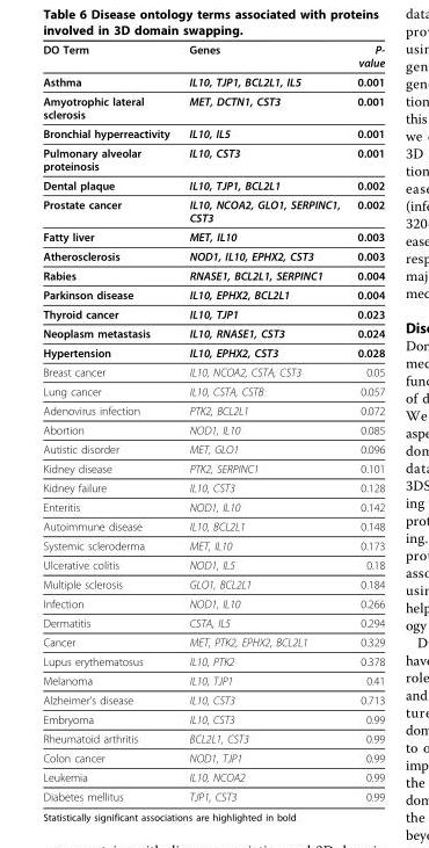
<table><thead><tr><td>DO Term</td><td>Genes</td><td>P- value</td></tr></thead><tbody><tr><td>Asthma</td><td>IL10, TJP1, BCL2L1, IL5</td><td>0.001</td></tr><tr><td>Amyotrophic lateral sclerosis</td><td>MET, DCTN1, CST3</td><td>0.001</td></tr><tr><td>Bronchial hyperreactivity</td><td>IL10, IL5</td><td>0.001</td></tr><tr><td>Pulmonary alveolar proteinosis</td><td>IL10, CST3</td><td>0.001</td></tr><tr><td>Dental plaque</td><td>IL10, TJP1, BCL2L1</td><td>0.002</td></tr><tr><td>Prostate cancer</td><td>IL10, NCOA2, GLO1, SERPINC1, CST3</td><td>0.002</td></tr><tr><td>Fatty liver</td><td>MET, IL10</td><td>0.003</td></tr><tr><td>Atherosclerosis</td><td>NOD1, IL10, EPHX2, CST3</td><td>0.003</td></tr><tr><td>Rabies</td><td>RNASE1, BCL2L1, SERPINC1</td><td>0.004</td></tr><tr><td>Parkinson disease</td><td>IL10, EPHX2, BCL2L1</td><td>0.004</td></tr><tr><td>Thyroid cancer</td><td>IL10, TJP1</td><td>0.023</td></tr><tr><td>Neoplasm metastasis</td><td>IL10, RNASE1, CST3</td><td>0.024</td></tr><tr><td>Hypertension</td><td>IL10, EPHX2, CST3</td><td>0.028</td></tr><tr><td>Breast cancer</td><td>IL10, NCOA2, CSTA, CST3</td><td>0.05</td></tr><tr><td>Lung cancer</td><td>IL10, CSTA, CSTB</td><td>0.057</td></tr><tr><td>Adenovirus infection</td><td>PTK2, BCL2L1</td><td>0.072</td></tr><tr><td>Abortion</td><td>NOD1, IL10</td><td>0.085</td></tr><tr><td>Autistic disorder</td><td>MET, GLO1</td><td>0.096</td></tr><tr><td>Kidney disease</td><td>PTK2, SERPINC1</td><td>0.101</td></tr><tr><td>Kidney failure</td><td>IL10, CST3</td><td>0.128</td></tr><tr><td>Enteritis</td><td>NOD1, IL10</td><td>0.142</td></tr><tr><td>Autoimmune disease</td><td>IL10, BCL2L1</td><td>0.148</td></tr><tr><td>Systemic scleroderma</td><td>MET, IL10</td><td>0.173</td></tr><tr><td>Ulcerative colitis</td><td>NOD1, IL5</td><td>0.18</td></tr><tr><td>Multiple sclerosis</td><td>GLO1, BCL2L1</td><td>0.184</td></tr><tr><td>Infection</td><td>NOD1, IL10</td><td>0.266</td></tr><tr><td>Dermatitis</td><td>CSTA, IL5</td><td>0.294</td></tr><tr><td>Cancer</td><td>MET, PTK2, EPHX2, BCL2L1</td><td>0.329</td></tr><tr><td>Lupus erythematosus</td><td>IL10, PTK2</td><td>0.378</td></tr><tr><td>Melanoma</td><td>IL10, TJP1</td><td>0.41</td></tr><tr><td>Alzheimer’s disease</td><td>IL10, CST3</td><td>0.713</td></tr><tr><td>Embryoma</td><td>IL10, CST3</td><td>0.99</td></tr><tr><td>Rheumatoid arthritis</td><td>BCL2L1, CST3</td><td>0.99</td></tr><tr><td>Colon cancer</td><td>NOD1, TJP1</td><td>0.99</td></tr><tr><td>Leukemia</td><td>IL10, NCOA2</td><td>0.99</td></tr><tr><td>Diabetes mellitus</td><td>TJP1, CST3</td><td>0.99</td></tr></tbody></table>